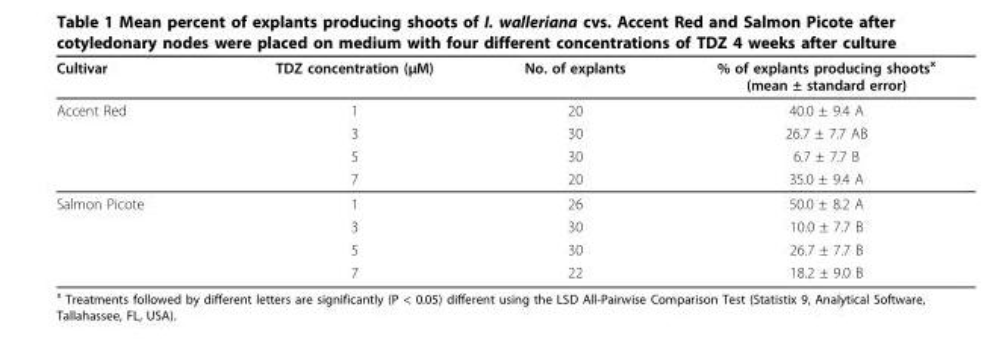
<table><thead><tr><td>Cultivar</td><td>TDZ concentration (μM)</td><td>No. of explants</td><td>% of explants producing shoots<sup>x</sup> (mean ± standard error)</td></tr></thead><tbody><tr><td rowspan="4">Accent Red</td><td>1</td><td>20</td><td>40.0 ± 9.4 A</td></tr><tr><td>3</td><td>30</td><td>26.7 ± 7.7 AB</td></tr><tr><td>5</td><td>30</td><td>6.7 ± 7.7 B</td></tr><tr><td>7</td><td>20</td><td>35.0 ± 9.4 A</td></tr><tr><td rowspan="4">Salmon Picote</td><td>1</td><td>26</td><td>50.0 ± 8.2 A</td></tr><tr><td>3</td><td>30</td><td>10.0 ± 7.7 B</td></tr><tr><td>5</td><td>30</td><td>26.7 ± 7.7 B</td></tr><tr><td>7</td><td>22</td><td>18.2 ± 9.0 B</td></tr></tbody></table>